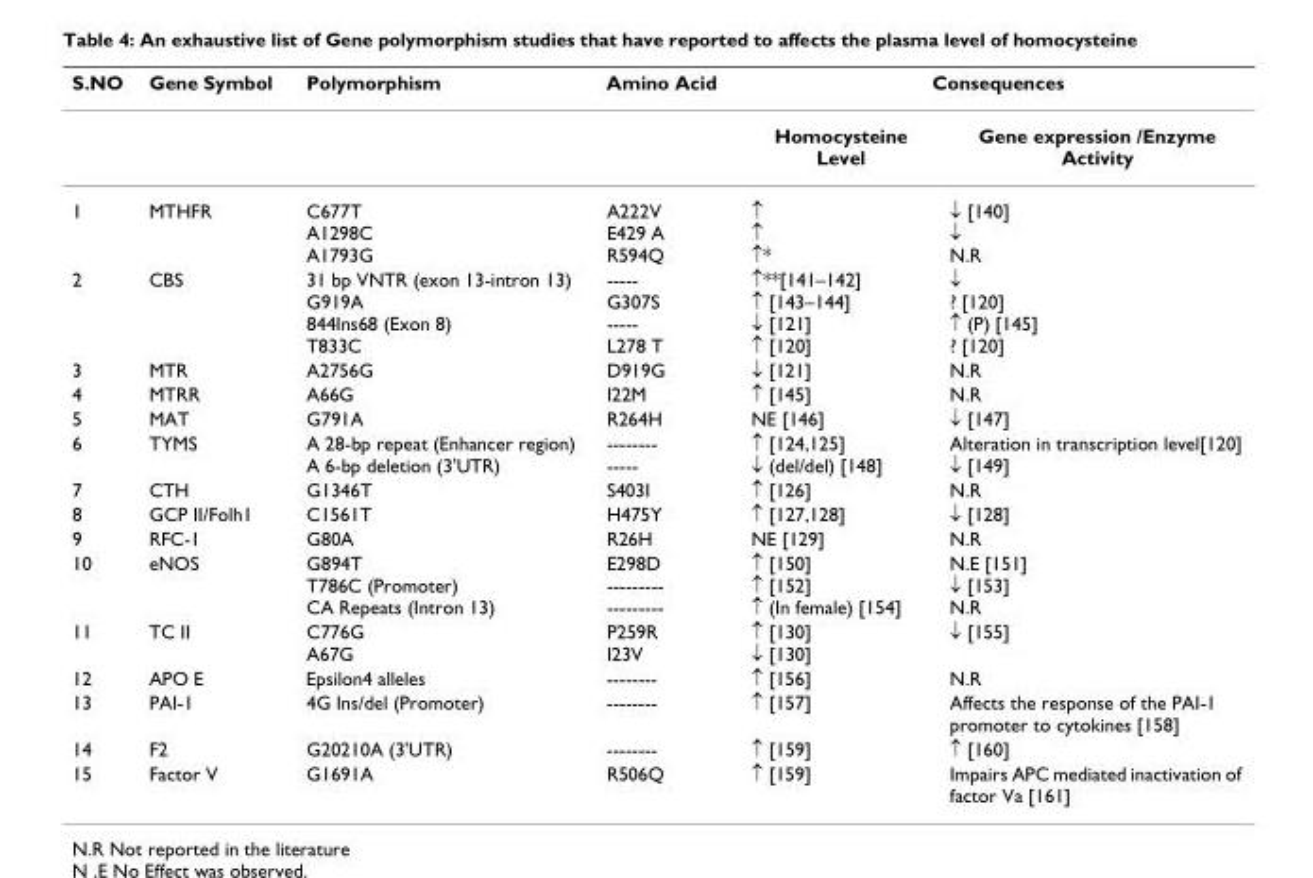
<table><thead><tr><td rowspan="2">S.NO</td><td rowspan="2">Gene Symbol</td><td rowspan="2">Polymorphism</td><td rowspan="2">Amino Acid</td><td colspan="2">Consequences</td></tr><tr><td>Homocysteine Level</td><td>Gene expression /Enzyme Activity</td></tr></thead><tbody><tr><td>1</td><td>MTHFR</td><td>C677T A1298C A1793G</td><td>A222V E429 A R594Q</td><td>↑ ↑ ↑*</td><td>↓ [140] ↓ N.R</td></tr><tr><td>2</td><td>CBS</td><td>31 bp VNTR (exon 13-intron 13) G919A 844Ins68 (Exon 8) T833C</td><td>----- G307S ----- L278 T</td><td>↑**[141–142] ↑ [143–144] ↓ [121] ↑ [120]</td><td>↓ ? [120] ↑ (P) [145] ? [120]</td></tr><tr><td>3</td><td>MTR</td><td>A2756G</td><td>D919G</td><td>↓ [121]</td><td>N.R</td></tr><tr><td>4</td><td>MTRR</td><td>A66G</td><td>I22M</td><td>↑ [145]</td><td>N.R</td></tr><tr><td>5</td><td>MAT</td><td>G791A</td><td>R264H</td><td>NE [146]</td><td>↓ [147]</td></tr><tr><td>6</td><td>TYMS</td><td>A 28-bp repeat (Enhancer region) A 6-bp deletion (3&#x27;UTR)</td><td>-------- -----</td><td>↑ [124,125] ↓ (del/del) [148]</td><td>Alteration in transcription level[120] ↓ [149]</td></tr><tr><td>7</td><td>CTH</td><td>G1346T</td><td>S403I</td><td>↑ [126]</td><td>N.R</td></tr><tr><td>8</td><td>GCP II/Folh1</td><td>C1561T</td><td>H475Y</td><td>↑ [127,128]</td><td>↓ [128]</td></tr><tr><td>9</td><td>RFC-1</td><td>G80A</td><td>R26H</td><td>NE [129]</td><td>N.R</td></tr><tr><td>10</td><td>eNOS</td><td>G894T T786C (Promoter) CA Repeats (Intron 13)</td><td>E298D --------- ---------</td><td>↑ [150] ↑ [152] ↑ (In female) [154]</td><td>N.E [151] ↓ [153] N.R</td></tr><tr><td>11</td><td>TC II</td><td>C776G A67G</td><td>P259R I23V</td><td>↑ [130] ↓ [130]</td><td>↓ [155]</td></tr><tr><td>12</td><td>APO E</td><td>Epsilon4 alleles</td><td>--------</td><td>↑ [156]</td><td>N.R</td></tr><tr><td>13</td><td>PAI-1</td><td>4G Ins/del (Promoter)</td><td>--------</td><td>↑ [157]</td><td>Affects the response of the PAI-1 promoter to cytokines [158]</td></tr><tr><td>14</td><td>F2</td><td>G20210A (3&#x27;UTR)</td><td>--------</td><td>↑ [159]</td><td>↑ [160]</td></tr><tr><td>15</td><td>Factor V</td><td>G1691A</td><td>R506Q</td><td>↑ [159]</td><td>Impairs APC mediated inactivation of factor Va [161]</td></tr></tbody></table>